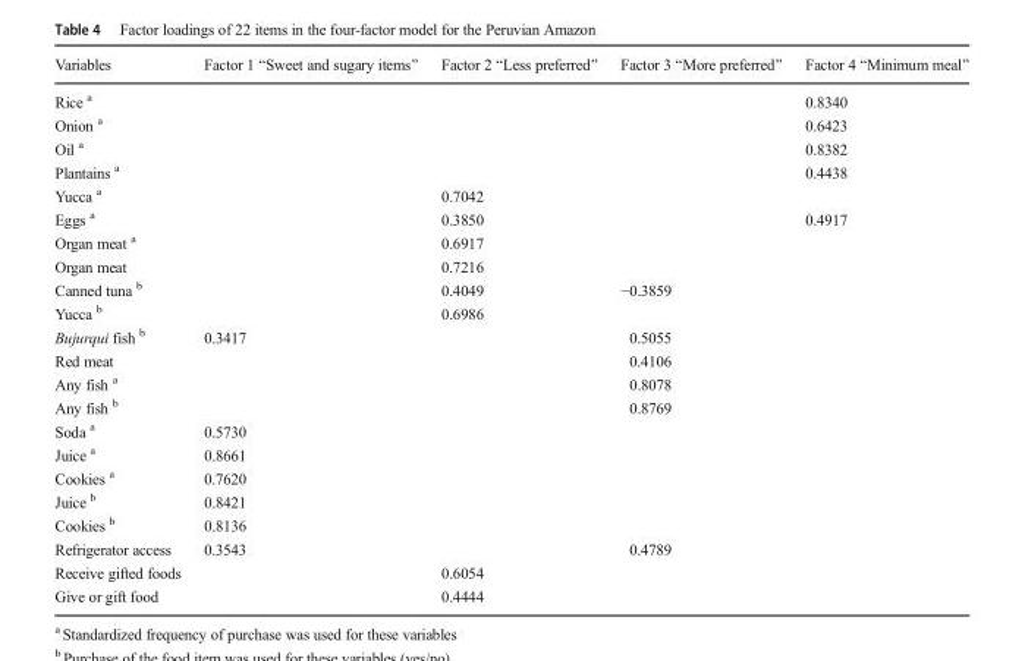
<table><thead><tr><td>Variables</td><td>Factor 1 “Sweet and sugary items”</td><td>Factor 2 “Less preferred”</td><td>Factor 3 “More preferred”</td><td>Factor 4 “Minimum meal”</td></tr></thead><tbody><tr><td>Rice <sup>a</sup></td><td></td><td></td><td></td><td>0.8340</td></tr><tr><td>Onion <sup>a</sup></td><td></td><td></td><td></td><td>0.6423</td></tr><tr><td>Oil <sup>a</sup></td><td></td><td></td><td></td><td>0.8382</td></tr><tr><td>Plantains <sup>a</sup></td><td></td><td></td><td></td><td>0.4438</td></tr><tr><td>Yucca <sup>a</sup></td><td></td><td>0.7042</td><td></td><td></td></tr><tr><td>Eggs <sup>a</sup></td><td></td><td>0.3850</td><td></td><td>0.4917</td></tr><tr><td>Organ meat <sup>a</sup></td><td></td><td>0.6917</td><td></td><td></td></tr><tr><td>Organ meat</td><td></td><td>0.7216</td><td></td><td></td></tr><tr><td>Canned tuna <sup>b</sup></td><td></td><td>0.4049</td><td>−0.3859</td><td></td></tr><tr><td>Yucca <sup>b</sup></td><td></td><td>0.6986</td><td></td><td></td></tr><tr><td>Bujurqui fish <sup>b</sup></td><td>0.3417</td><td></td><td>0.5055</td><td></td></tr><tr><td>Red meat</td><td></td><td></td><td>0.4106</td><td></td></tr><tr><td>Any fish <sup>a</sup></td><td></td><td></td><td>0.8078</td><td></td></tr><tr><td>Any fish <sup>b</sup></td><td></td><td></td><td>0.8769</td><td></td></tr><tr><td>Soda <sup>a</sup></td><td>0.5730</td><td></td><td></td><td></td></tr><tr><td>Juice <sup>a</sup></td><td>0.8661</td><td></td><td></td><td></td></tr><tr><td>Cookies <sup>a</sup></td><td>0.7620</td><td></td><td></td><td></td></tr><tr><td>Juice <sup>b</sup></td><td>0.8421</td><td></td><td></td><td></td></tr><tr><td>Cookies <sup>b</sup></td><td>0.8136</td><td></td><td></td><td></td></tr><tr><td>Refrigerator access</td><td>0.3543</td><td></td><td>0.4789</td><td></td></tr><tr><td>Receive gifted foods</td><td></td><td>0.6054</td><td></td><td></td></tr><tr><td>Give or gift food</td><td></td><td>0.4444</td><td></td><td></td></tr></tbody></table>